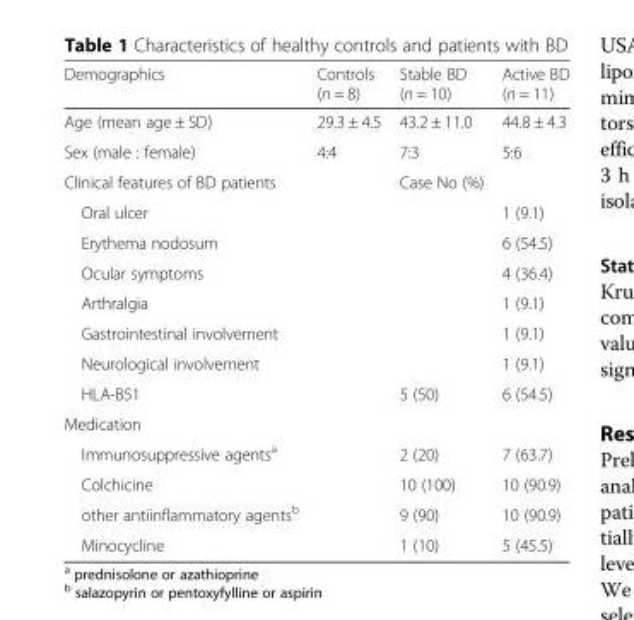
<table><thead><tr><td>Demographics</td><td>Controls (n = 8)</td><td>Stable BD (n = 10)</td><td>Active BD (n = 11)</td></tr></thead><tbody><tr><td>Age (mean age ± SD)</td><td>29.3 ± 4.5</td><td>43.2 ± 11.0</td><td>44.8 ± 4.3</td></tr><tr><td>Sex (male : female)</td><td>4:4</td><td>7:3</td><td>5:6</td></tr><tr><td>Clinical features of BD patients</td><td></td><td>Case No (%)</td><td></td></tr><tr><td>Oral ulcer</td><td></td><td></td><td>1 (9.1)</td></tr><tr><td>Erythema nodosum</td><td></td><td></td><td>6 (54.5)</td></tr><tr><td>Ocular symptoms</td><td></td><td></td><td>4 (36.4)</td></tr><tr><td>Arthralgia</td><td></td><td></td><td>1 (9.1)</td></tr><tr><td>Gastrointestinal involvement</td><td></td><td></td><td>1 (9.1)</td></tr><tr><td>Neurological involvement</td><td></td><td></td><td>1 (9.1)</td></tr><tr><td>HLA-B51</td><td></td><td>5 (50)</td><td>6 (54.5)</td></tr><tr><td colspan="4">Medication</td></tr><tr><td>Immunosuppressive agents<sup>a</sup></td><td></td><td>2 (20)</td><td>7 (63.7)</td></tr><tr><td>Colchicine</td><td></td><td>10 (100)</td><td>10 (90.9)</td></tr><tr><td>other antiinflammatory agents<sup>b</sup></td><td></td><td>9 (90)</td><td>10 (90.9)</td></tr><tr><td>Minocycline</td><td></td><td>1 (10)</td><td>5 (45.5)</td></tr></tbody></table>